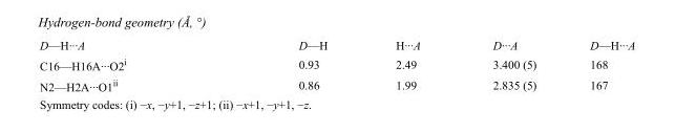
<table><tbody><tr><td>D—H···A</td><td>D—H</td><td>H···A</td><td>D···A</td><td>D—H···A</td></tr><tr><td>C16—H16A···O2<sup>i</sup></td><td>0.93</td><td>2.49</td><td>3.400 (5)</td><td>168</td></tr><tr><td>N2—H2A···O1<sup>ii</sup></td><td>0.86</td><td>1.99</td><td>2.835 (5)</td><td>167</td></tr></tbody></table>